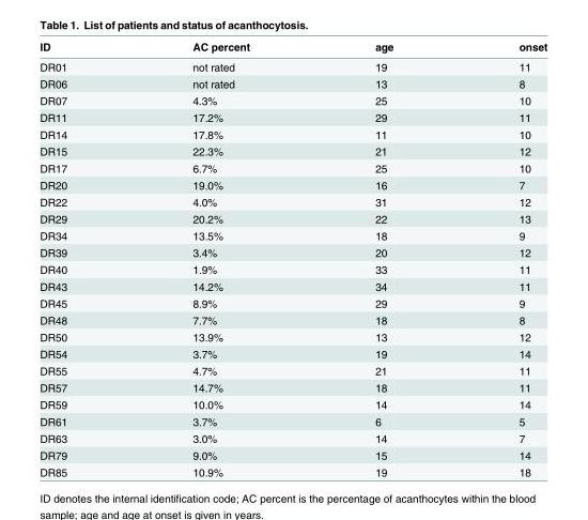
<table><thead><tr><td>ID</td><td>AC percent</td><td>age</td><td>onset</td></tr></thead><tbody><tr><td>DR01</td><td>not rated</td><td>19</td><td>11</td></tr><tr><td>DR06</td><td>not rated</td><td>13</td><td>8</td></tr><tr><td>DR07</td><td>4.3%</td><td>25</td><td>10</td></tr><tr><td>DR11</td><td>17.2%</td><td>29</td><td>11</td></tr><tr><td>DR14</td><td>17.8%</td><td>11</td><td>10</td></tr><tr><td>DR15</td><td>22.3%</td><td>21</td><td>12</td></tr><tr><td>DR17</td><td>6.7%</td><td>25</td><td>10</td></tr><tr><td>DR20</td><td>19.0%</td><td>16</td><td>7</td></tr><tr><td>DR22</td><td>4.0%</td><td>31</td><td>12</td></tr><tr><td>DR29</td><td>20.2%</td><td>22</td><td>13</td></tr><tr><td>DR34</td><td>13.5%</td><td>18</td><td>9</td></tr><tr><td>DR39</td><td>3.4%</td><td>20</td><td>12</td></tr><tr><td>DR40</td><td>1.9%</td><td>33</td><td>11</td></tr><tr><td>DR43</td><td>14.2%</td><td>34</td><td>11</td></tr><tr><td>DR45</td><td>8.9%</td><td>29</td><td>9</td></tr><tr><td>DR48</td><td>7.7%</td><td>18</td><td>8</td></tr><tr><td>DR50</td><td>13.9%</td><td>13</td><td>12</td></tr><tr><td>DR54</td><td>3.7%</td><td>19</td><td>14</td></tr><tr><td>DR55</td><td>4.7%</td><td>21</td><td>11</td></tr><tr><td>DR57</td><td>14.7%</td><td>18</td><td>11</td></tr><tr><td>DR59</td><td>10.0%</td><td>14</td><td>14</td></tr><tr><td>DR61</td><td>3.7%</td><td>6</td><td>5</td></tr><tr><td>DR63</td><td>3.0%</td><td>14</td><td>7</td></tr><tr><td>DR79</td><td>9.0%</td><td>15</td><td>14</td></tr><tr><td>DR85</td><td>10.9%</td><td>19</td><td>18</td></tr></tbody></table>